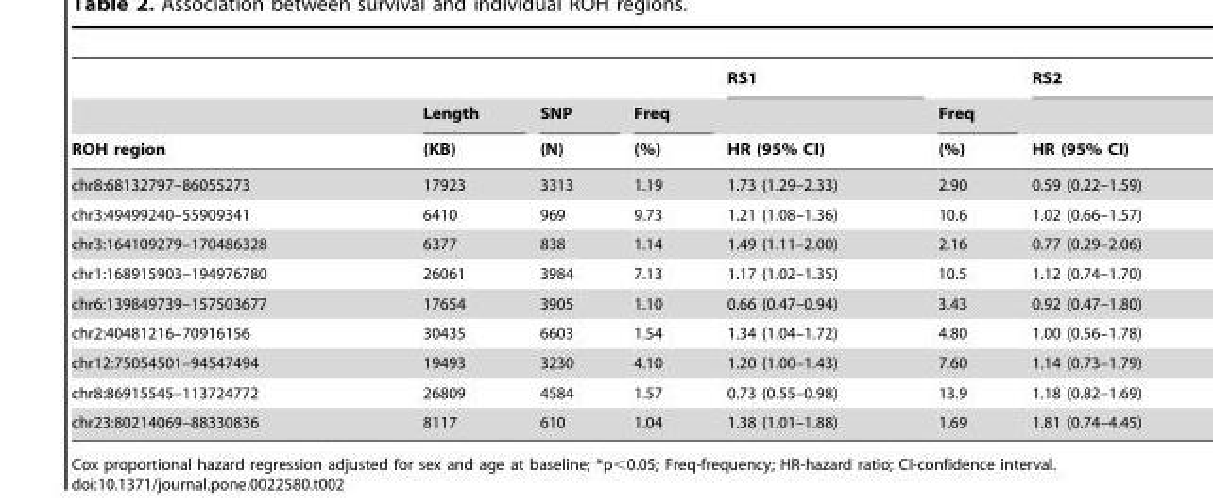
<table><thead><tr><td rowspan="3">ROH region</td><td rowspan="3">Length (KB)</td><td rowspan="3">SNP (N)</td><td rowspan="3">Freq (%)</td><td rowspan="3">RS1 HR (95% CI)</td><td rowspan="3">Freq (%)</td><td rowspan="3">RS2 HR (95% CI)</td></tr><tr></tr><tr></tr></thead><tbody><tr><td>chr8:68132797–86055273</td><td>17923</td><td>3313</td><td>1.19</td><td>1.73 (1.29–2.33)</td><td>2.90</td><td>0.59 (0.22–1.59)</td></tr><tr><td>chr3:49499240–55909341</td><td>6410</td><td>969</td><td>9.73</td><td>1.21 (1.08–1.36)</td><td>10.6</td><td>1.02 (0.66–1.57)</td></tr><tr><td>chr3:164109279–170486328</td><td>6377</td><td>838</td><td>1.14</td><td>1.49 (1.11–2.00)</td><td>2.16</td><td>0.77 (0.29–2.06)</td></tr><tr><td>chr1:168915903–194976780</td><td>26061</td><td>3984</td><td>7.13</td><td>1.17 (1.02–1.35)</td><td>10.5</td><td>1.12 (0.74–1.70)</td></tr><tr><td>chr6:139849739–157503677</td><td>17654</td><td>3905</td><td>1.10</td><td>0.66 (0.47–0.94)</td><td>3.43</td><td>0.92 (0.47–1.80)</td></tr><tr><td>chr2:40481216–70916156</td><td>30435</td><td>6603</td><td>1.54</td><td>1.34 (1.04–1.72)</td><td>4.80</td><td>1.00 (0.56–1.78)</td></tr><tr><td>chr12:75054501–94547494</td><td>19493</td><td>3230</td><td>4.10</td><td>1.20 (1.00–1.43)</td><td>7.60</td><td>1.14 (0.73–1.79)</td></tr><tr><td>chr8:86915545–113724772</td><td>26809</td><td>4584</td><td>1.57</td><td>0.73 (0.55–0.98)</td><td>13.9</td><td>1.18 (0.82–1.69)</td></tr><tr><td>chr23:80214069–88330836</td><td>8117</td><td>610</td><td>1.04</td><td>1.38 (1.01–1.88)</td><td>1.69</td><td>1.81 (0.74–4.45)</td></tr></tbody></table>